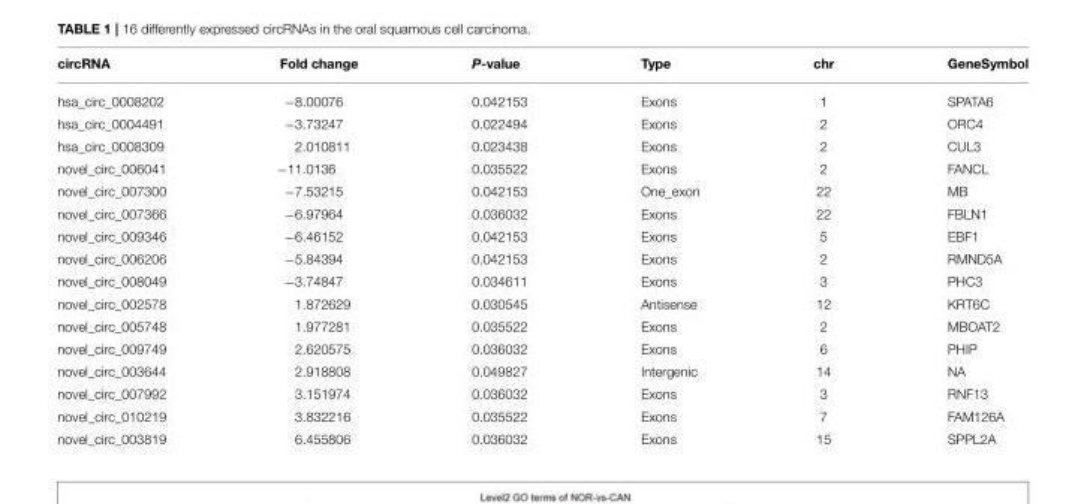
<table><thead><tr><td>circRNA</td><td>Fold change</td><td>P-value</td><td>Type</td><td>chr</td><td>GeneSymbol</td></tr></thead><tbody><tr><td>hsa_circ_0008202</td><td>−8.00076</td><td>0.042153</td><td>Exons</td><td>1</td><td>SPATA6</td></tr><tr><td>hsa_circ_0004491</td><td>−3.73247</td><td>0.022494</td><td>Exons</td><td>2</td><td>ORC4</td></tr><tr><td>hsa_circ_0008309</td><td>2.010811</td><td>0.023438</td><td>Exons</td><td>2</td><td>CUL3</td></tr><tr><td>novel_circ_006041</td><td>−11.0136</td><td>0.035522</td><td>Exons</td><td>2</td><td>FANCL</td></tr><tr><td>novel_circ_007300</td><td>−7.53215</td><td>0.042153</td><td>One_exon</td><td>22</td><td>MB</td></tr><tr><td>novel_circ_007366</td><td>−6.97964</td><td>0.036032</td><td>Exons</td><td>22</td><td>FBLN1</td></tr><tr><td>novel_circ_009346</td><td>−6.46152</td><td>0.042153</td><td>Exons</td><td>5</td><td>EBF1</td></tr><tr><td>novel_circ_006206</td><td>−5.84394</td><td>0.042153</td><td>Exons</td><td>2</td><td>RMND5A</td></tr><tr><td>novel_circ_008049</td><td>−3.74847</td><td>0.034611</td><td>Exons</td><td>3</td><td>PHC3</td></tr><tr><td>novel_circ_002578</td><td>1.872629</td><td>0.030545</td><td>Antisense</td><td>12</td><td>KRT6C</td></tr><tr><td>novel_circ_005748</td><td>1.977281</td><td>0.035522</td><td>Exons</td><td>2</td><td>MBOAT2</td></tr><tr><td>novel_circ_009749</td><td>2.620575</td><td>0.036032</td><td>Exons</td><td>6</td><td>PHIP</td></tr><tr><td>novel_circ_003644</td><td>2.918808</td><td>0.049827</td><td>Intergenic</td><td>14</td><td>NA</td></tr><tr><td>novel_circ_007992</td><td>3.151974</td><td>0.036032</td><td>Exons</td><td>3</td><td>RNF13</td></tr><tr><td>novel_circ_010219</td><td>3.832216</td><td>0.035522</td><td>Exons</td><td>7</td><td>FAM126A</td></tr><tr><td>novel_circ_003819</td><td>6.455806</td><td>0.036032</td><td>Exons</td><td>15</td><td>SPPL2A</td></tr></tbody></table>